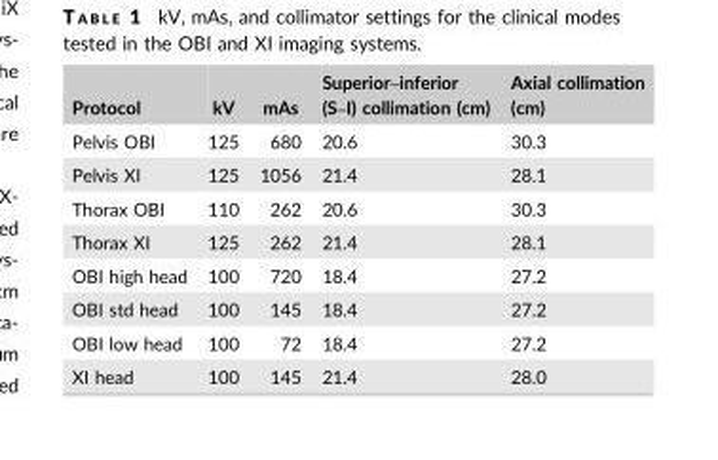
<table><thead><tr><td>Protocol</td><td>kV</td><td>mAs</td><td>Superior–inferior (S–I) collimation (cm)</td><td>Axial collimation (cm)</td></tr></thead><tbody><tr><td>Pelvis OBI</td><td>125</td><td>680</td><td>20.6</td><td>30.3</td></tr><tr><td>Pelvis XI</td><td>125</td><td>1056</td><td>21.4</td><td>28.1</td></tr><tr><td>Thorax OBI</td><td>110</td><td>262</td><td>20.6</td><td>30.3</td></tr><tr><td>Thorax XI</td><td>125</td><td>262</td><td>21.4</td><td>28.1</td></tr><tr><td>OBI high head</td><td>100</td><td>720</td><td>18.4</td><td>27.2</td></tr><tr><td>OBI std head</td><td>100</td><td>145</td><td>18.4</td><td>27.2</td></tr><tr><td>OBI low head</td><td>100</td><td>72</td><td>18.4</td><td>27.2</td></tr><tr><td>XI head</td><td>100</td><td>145</td><td>21.4</td><td>28.0</td></tr></tbody></table>